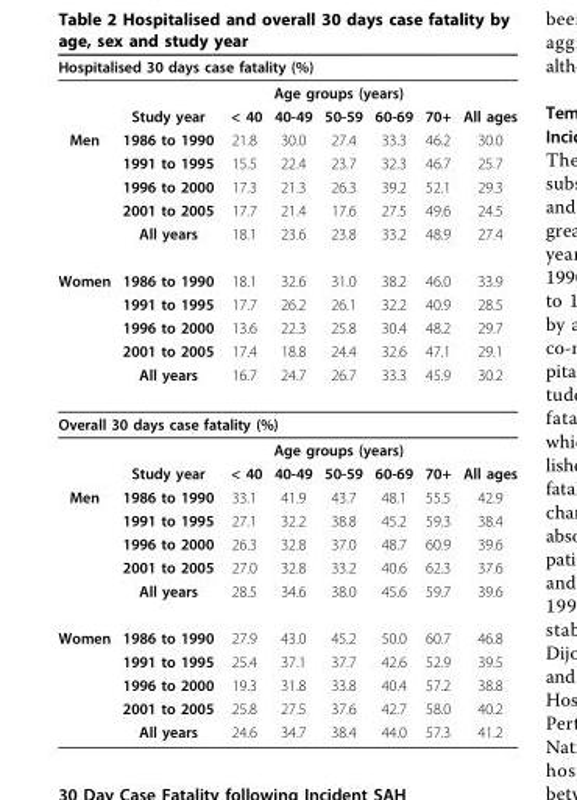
<table><thead><tr><td colspan="7">Hospitalised 30 days case fatality (%)</td><td rowspan="3">All ages</td></tr><tr><td rowspan="2"></td><td rowspan="2">Study year</td><td colspan="5">Age groups (years)</td></tr><tr><td>&lt; 40</td><td>40-49</td><td>50-59</td><td>60-69</td><td>70+</td></tr></thead><tbody><tr><td rowspan="5">Men</td><td>1986 to 1990</td><td>21.8</td><td>30.0</td><td>27.4</td><td>33.3</td><td>46.2</td><td>30.0</td></tr><tr><td>1991 to 1995</td><td>15.5</td><td>22.4</td><td>23.7</td><td>32.3</td><td>46.7</td><td>25.7</td></tr><tr><td>1996 to 2000</td><td>17.3</td><td>21.3</td><td>26.3</td><td>39.2</td><td>52.1</td><td>29.3</td></tr><tr><td>2001 to 2005</td><td>17.7</td><td>21.4</td><td>17.6</td><td>27.5</td><td>49.6</td><td>24.5</td></tr><tr><td>All years</td><td>18.1</td><td>23.6</td><td>23.8</td><td>33.2</td><td>48.9</td><td>27.4</td></tr><tr><td rowspan="5">Women</td><td>1986 to 1990</td><td>18.1</td><td>32.6</td><td>31.0</td><td>38.2</td><td>46.0</td><td>33.9</td></tr><tr><td>1991 to 1995</td><td>17.7</td><td>26.2</td><td>26.1</td><td>32.2</td><td>40.9</td><td>28.5</td></tr><tr><td>1996 to 2000</td><td>13.6</td><td>22.3</td><td>25.8</td><td>30.4</td><td>48.2</td><td>29.7</td></tr><tr><td>2001 to 2005</td><td>17.4</td><td>18.8</td><td>24.4</td><td>32.6</td><td>47.1</td><td>29.1</td></tr><tr><td>All years</td><td>16.7</td><td>24.7</td><td>26.7</td><td>33.3</td><td>45.9</td><td>30.2</td></tr><tr><td colspan="8">Overall 30 days case fatality (%)</td></tr><tr><td></td><td></td><td colspan="5">Age groups (years)</td><td></td></tr><tr><td></td><td>Study year</td><td>&lt; 40</td><td>40-49</td><td>50-59</td><td>60-69</td><td>70+</td><td>All ages</td></tr><tr><td rowspan="5">Men</td><td>1986 to 1990</td><td>33.1</td><td>41.9</td><td>43.7</td><td>48.1</td><td>55.5</td><td>42.9</td></tr><tr><td>1991 to 1995</td><td>27.1</td><td>32.2</td><td>38.8</td><td>45.2</td><td>59.3</td><td>38.4</td></tr><tr><td>1996 to 2000</td><td>26.3</td><td>32.8</td><td>37.0</td><td>48.7</td><td>60.9</td><td>39.6</td></tr><tr><td>2001 to 2005</td><td>27.0</td><td>32.8</td><td>33.2</td><td>40.6</td><td>62.3</td><td>37.6</td></tr><tr><td>All years</td><td>28.5</td><td>34.6</td><td>38.0</td><td>45.6</td><td>59.7</td><td>39.6</td></tr><tr><td rowspan="5">Women</td><td>1986 to 1990</td><td>27.9</td><td>43.0</td><td>45.2</td><td>50.0</td><td>60.7</td><td>46.8</td></tr><tr><td>1991 to 1995</td><td>25.4</td><td>37.1</td><td>37.7</td><td>42.6</td><td>52.9</td><td>39.5</td></tr><tr><td>1996 to 2000</td><td>19.3</td><td>31.8</td><td>33.8</td><td>40.4</td><td>57.2</td><td>38.8</td></tr><tr><td>2001 to 2005</td><td>25.8</td><td>27.5</td><td>37.6</td><td>42.7</td><td>58.0</td><td>40.2</td></tr><tr><td>All years</td><td>24.6</td><td>34.7</td><td>38.4</td><td>44.0</td><td>57.3</td><td>41.2</td></tr></tbody></table>